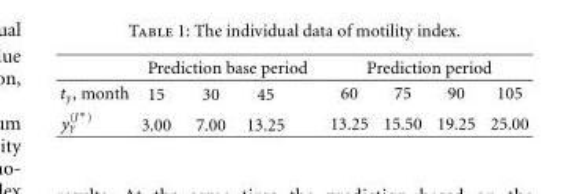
<table><thead><tr><td rowspan="2">t<sub>γ</sub>, month</td><td colspan="3">Prediction base period</td><td colspan="4">Prediction period</td></tr><tr><td>15</td><td>30</td><td>45</td><td>60</td><td>75</td><td>90</td><td>105</td></tr></thead><tbody><tr><td>y(J∗) γ</td><td>3.00</td><td>7.00</td><td>13.25</td><td>13.25</td><td>15.50</td><td>19.25</td><td>25.00</td></tr></tbody></table>